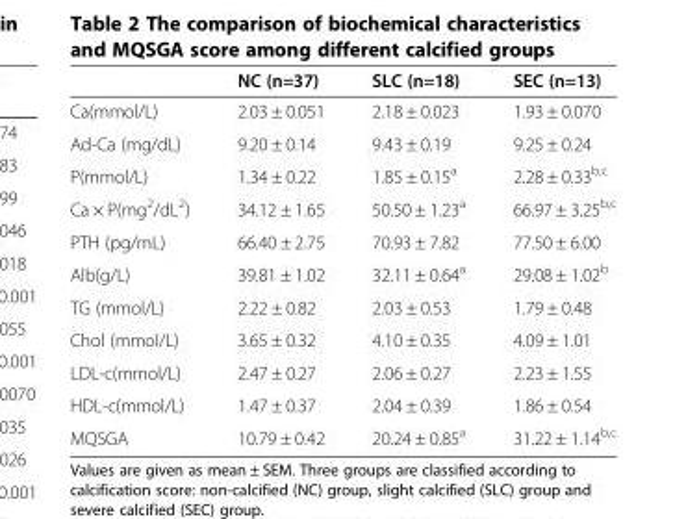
<table><thead><tr><td></td><td>NC (n=37)</td><td>SLC (n=18)</td><td>SEC (n=13)</td></tr></thead><tbody><tr><td>Ca(mmol/L)</td><td>2.03 ± 0.051</td><td>2.18 ± 0.023</td><td>1.93 ± 0.070</td></tr><tr><td>Ad-Ca (mg/dL)</td><td>9.20 ± 0.14</td><td>9.43 ± 0.19</td><td>9.25 ± 0.24</td></tr><tr><td>P(mmol/L)</td><td>1.34 ± 0.22</td><td>1.85 ± 0.15<sup>a</sup></td><td>2.28 ± 0.33<sup>b,c</sup></td></tr><tr><td>Ca × P(mg<sup>2</sup>/dL<sup>2</sup>)</td><td>34.12 ± 1.65</td><td>50.50 ± 1.23<sup>a</sup></td><td>66.97 ± 3.25<sup>b,c</sup></td></tr><tr><td>PTH (pg/mL)</td><td>66.40 ± 2.75</td><td>70.93 ± 7.82</td><td>77.50 ± 6.00</td></tr><tr><td>Alb(g/L)</td><td>39.81 ± 1.02</td><td>32.11 ± 0.64<sup>a</sup></td><td>29.08 ± 1.02<sup>b</sup></td></tr><tr><td>TG (mmol/L)</td><td>2.22 ± 0.82</td><td>2.03 ± 0.53</td><td>1.79 ± 0.48</td></tr><tr><td>Chol (mmol/L)</td><td>3.65 ± 0.32</td><td>4.10 ± 0.35</td><td>4.09 ± 1.01</td></tr><tr><td>LDL-c(mmol/L)</td><td>2.47 ± 0.27</td><td>2.06 ± 0.27</td><td>2.23 ± 1.55</td></tr><tr><td>HDL-c(mmol/L)</td><td>1.47 ± 0.37</td><td>2.04 ± 0.39</td><td>1.86 ± 0.54</td></tr><tr><td>MQSGA</td><td>10.79 ± 0.42</td><td>20.24 ± 0.85<sup>a</sup></td><td>31.22 ± 1.14<sup>b,c</sup></td></tr></tbody></table>